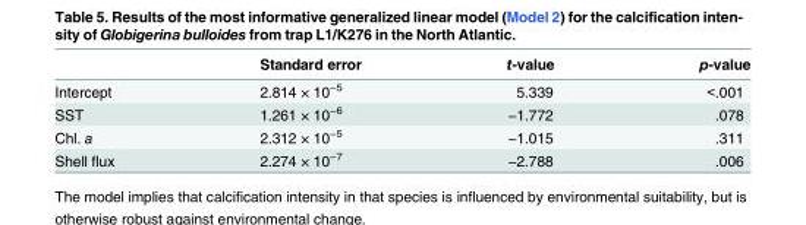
<table><thead><tr><td></td><td>Standard error</td><td>t-value</td><td>p-value</td></tr></thead><tbody><tr><td>Intercept</td><td>2.814 × 10<sup>−5</sup></td><td>5.339</td><td>&lt;.001</td></tr><tr><td>SST</td><td>1.261 × 10<sup>−6</sup></td><td>−1.772</td><td>.078</td></tr><tr><td>Chl. a</td><td>2.312 × 10<sup>−5</sup></td><td>−1.015</td><td>.311</td></tr><tr><td>Shell flux</td><td>2.274 × 10<sup>−7</sup></td><td>−2.788</td><td>.006</td></tr></tbody></table>